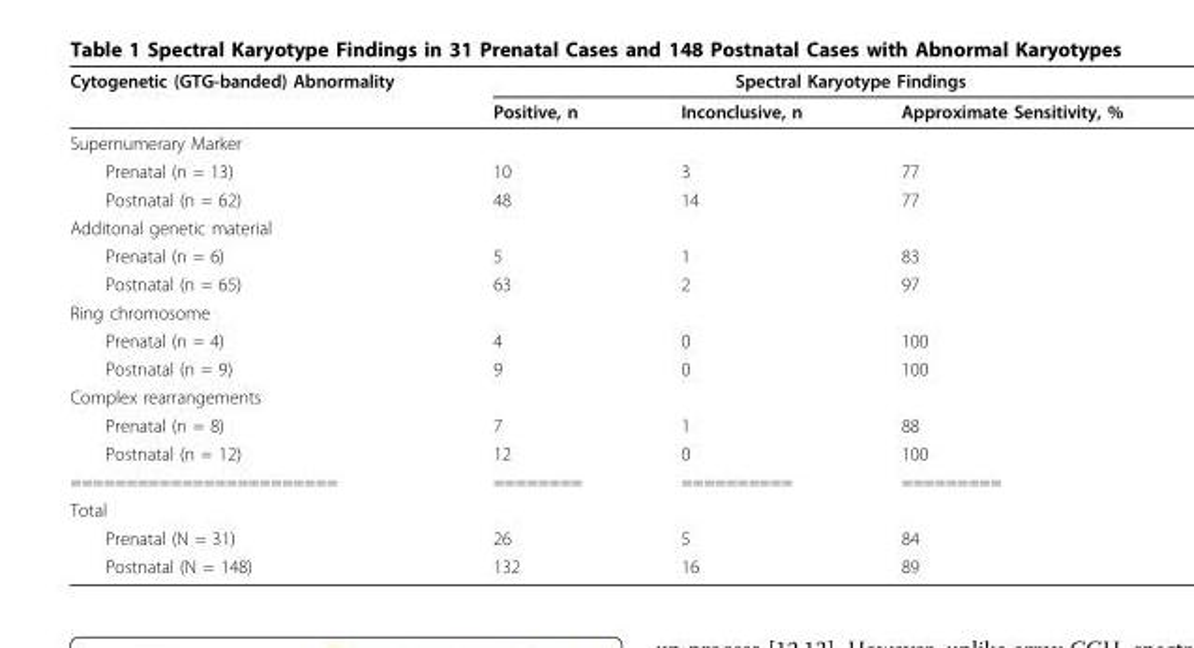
<table><thead><tr><td rowspan="2">Cytogenetic (GTG-banded) Abnormality</td><td colspan="3">Spectral Karyotype Findings</td></tr><tr><td>Positive, n</td><td>Inconclusive, n</td><td>Approximate Sensitivity, %</td></tr></thead><tbody><tr><td colspan="4">Supernumerary Marker</td></tr><tr><td>Prenatal (n = 13)</td><td>10</td><td>3</td><td>77</td></tr><tr><td>Postnatal (n = 62)</td><td>48</td><td>14</td><td>77</td></tr><tr><td colspan="4">Additonal genetic material</td></tr><tr><td>Prenatal (n = 6)</td><td>5</td><td>1</td><td>83</td></tr><tr><td>Postnatal (n = 65)</td><td>63</td><td>2</td><td>97</td></tr><tr><td colspan="4">Ring chromosome</td></tr><tr><td>Prenatal (n = 4)</td><td>4</td><td>0</td><td>100</td></tr><tr><td>Postnatal (n = 9)</td><td>9</td><td>0</td><td>100</td></tr><tr><td colspan="4">Complex rearrangements</td></tr><tr><td>Prenatal (n = 8)</td><td>7</td><td>1</td><td>88</td></tr><tr><td>Postnatal (n = 12)</td><td>12</td><td>0</td><td>100</td></tr><tr><td>========================</td><td>========</td><td>==========</td><td>=========</td></tr><tr><td colspan="4">Total</td></tr><tr><td>Prenatal (N = 31)</td><td>26</td><td>5</td><td>84</td></tr><tr><td>Postnatal (N = 148)</td><td>132</td><td>16</td><td>89</td></tr></tbody></table>